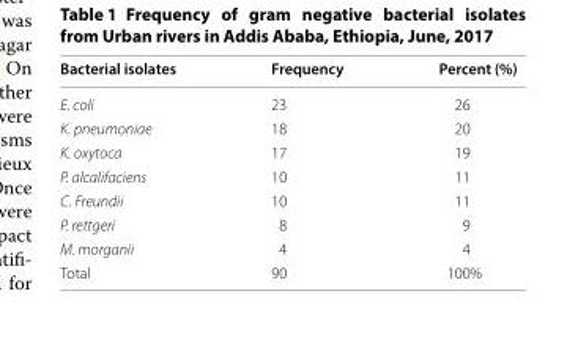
<table><thead><tr><td>Bacterial isolates</td><td>Frequency</td><td>Percent (%)</td></tr></thead><tbody><tr><td>E. coli</td><td>23</td><td>26</td></tr><tr><td>K. pneumoniae</td><td>18</td><td>20</td></tr><tr><td>K. oxytoca</td><td>17</td><td>19</td></tr><tr><td>P. alcalifaciens</td><td>10</td><td>11</td></tr><tr><td>C. Freundii</td><td>10</td><td>11</td></tr><tr><td>P. rettgeri</td><td>8</td><td>9</td></tr><tr><td>M. morganii</td><td>4</td><td>4</td></tr><tr><td>Total</td><td>90</td><td>100%</td></tr></tbody></table>